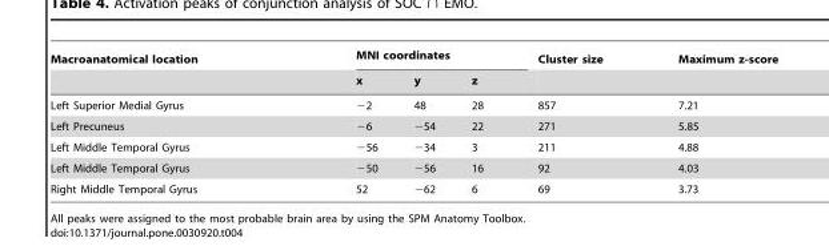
<table><thead><tr><td rowspan="2">Macroanatomical location</td><td colspan="3">MNI coordinates</td><td rowspan="2">Cluster size</td><td rowspan="2">Maximum z-score</td></tr><tr><td>x</td><td>y</td><td>z</td></tr></thead><tbody><tr><td>Left Superior Medial Gyrus</td><td>−2</td><td>48</td><td>28</td><td>857</td><td>7.21</td></tr><tr><td>Left Precuneus</td><td>−6</td><td>−54</td><td>22</td><td>271</td><td>5.85</td></tr><tr><td>Left Middle Temporal Gyrus</td><td>−56</td><td>−34</td><td>3</td><td>211</td><td>4.88</td></tr><tr><td>Left Middle Temporal Gyrus</td><td>−50</td><td>−56</td><td>16</td><td>92</td><td>4.03</td></tr><tr><td>Right Middle Temporal Gyrus</td><td>52</td><td>−62</td><td>6</td><td>69</td><td>3.73</td></tr></tbody></table>